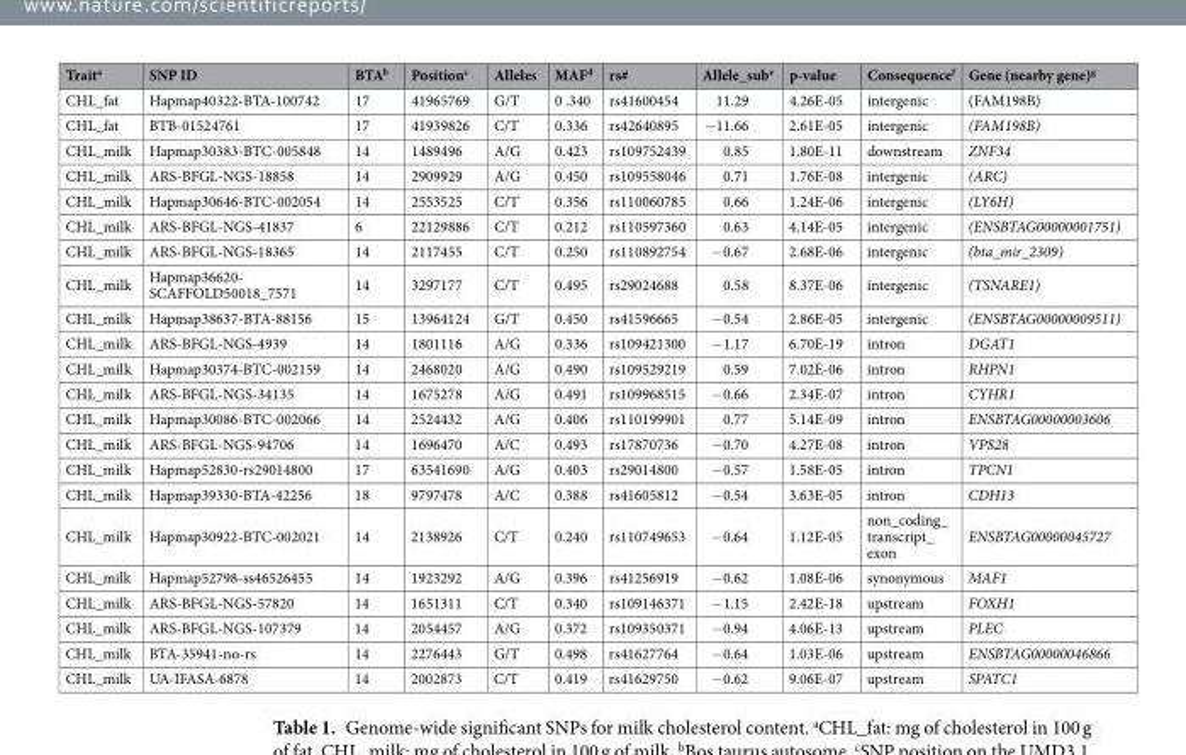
<table><thead><tr><td>Trait<sup>a</sup></td><td>SNP ID</td><td>BTA<sup>b</sup></td><td>Position<sup>c</sup></td><td>Alleles</td><td>MAF<sup>d</sup></td><td>rs#</td><td>Allele_sub<sup>e</sup></td><td>p-value</td><td>Consequence<sup>f</sup></td><td>Gene (nearby gene)<sup>g</sup></td></tr></thead><tbody><tr><td>CHL_fat</td><td>Hapmap40322-BTA-100742</td><td>17</td><td>41965769</td><td>G/T</td><td>0 .340</td><td>rs41600454</td><td>11.29</td><td>4.26E-05</td><td>intergenic</td><td>(FAM198B)</td></tr><tr><td>CHL_fat</td><td>BTB-01524761</td><td>17</td><td>41939826</td><td>C/T</td><td>0.336</td><td>rs42640895</td><td>−11.66</td><td>2.61E-05</td><td>intergenic</td><td>(FAM198B)</td></tr><tr><td>CHL_milk</td><td>Hapmap30383-BTC-005848</td><td>14</td><td>1489496</td><td>A/G</td><td>0.423</td><td>rs109752439</td><td>0.85</td><td>1.80E-11</td><td>downstream</td><td>ZNF34</td></tr><tr><td>CHL_milk</td><td>ARS-BFGL-NGS-18858</td><td>14</td><td>2909929</td><td>A/G</td><td>0.450</td><td>rs109558046</td><td>0.71</td><td>1.76E-08</td><td>intergenic</td><td>(ARC)</td></tr><tr><td>CHL_milk</td><td>Hapmap30646-BTC-002054</td><td>14</td><td>2553525</td><td>C/T</td><td>0.356</td><td>rs110060785</td><td>0.66</td><td>1.24E-06</td><td>intergenic</td><td>(LY6H)</td></tr><tr><td>CHL_milk</td><td>ARS-BFGL-NGS-41837</td><td>6</td><td>22129886</td><td>C/T</td><td>0.212</td><td>rs110597360</td><td>0.63</td><td>4.14E-05</td><td>intergenic</td><td>(ENSBTAG00000001751)</td></tr><tr><td>CHL_milk</td><td>ARS-BFGL-NGS-18365</td><td>14</td><td>2117455</td><td>C/T</td><td>0.250</td><td>rs110892754</td><td>−0.67</td><td>2.68E-06</td><td>intergenic</td><td>(bta_mir_2309)</td></tr><tr><td>CHL_milk</td><td>Hapmap36620- SCAFFOLD50018_7571</td><td>14</td><td>3297177</td><td>C/T</td><td>0.495</td><td>rs29024688</td><td>0.58</td><td>8.37E-06</td><td>intergenic</td><td>(TSNARE1)</td></tr><tr><td>CHL_milk</td><td>Hapmap38637-BTA-88156</td><td>15</td><td>13964124</td><td>G/T</td><td>0.450</td><td>rs41596665</td><td>−0.54</td><td>2.86E-05</td><td>intergenic</td><td>(ENSBTAG00000009511)</td></tr><tr><td>CHL_milk</td><td>ARS-BFGL-NGS-4939</td><td>14</td><td>1801116</td><td>A/G</td><td>0.336</td><td>rs109421300</td><td>−1.17</td><td>6.70E-19</td><td>intron</td><td>DGAT1</td></tr><tr><td>CHL_milk</td><td>Hapmap30374-BTC-002159</td><td>14</td><td>2468020</td><td>A/G</td><td>0.490</td><td>rs109529219</td><td>0.59</td><td>7.02E-06</td><td>intron</td><td>RHPN1</td></tr><tr><td>CHL_milk</td><td>ARS-BFGL-NGS-34135</td><td>14</td><td>1675278</td><td>A/G</td><td>0.491</td><td>rs109968515</td><td>−0.66</td><td>2.34E-07</td><td>intron</td><td>CYHR1</td></tr><tr><td>CHL_milk</td><td>Hapmap30086-BTC-002066</td><td>14</td><td>2524432</td><td>A/G</td><td>0.406</td><td>rs110199901</td><td>0.77</td><td>5.14E-09</td><td>intron</td><td>ENSBTAG00000003606</td></tr><tr><td>CHL_milk</td><td>ARS-BFGL-NGS-94706</td><td>14</td><td>1696470</td><td>A/C</td><td>0.493</td><td>rs17870736</td><td>−0.70</td><td>4.27E-08</td><td>intron</td><td>VPS28</td></tr><tr><td>CHL_milk</td><td>Hapmap52830-rs29014800</td><td>17</td><td>63541690</td><td>A/G</td><td>0.403</td><td>rs29014800</td><td>−0.57</td><td>1.58E-05</td><td>intron</td><td>TPCN1</td></tr><tr><td>CHL_milk</td><td>Hapmap39330-BTA-42256</td><td>18</td><td>9797478</td><td>A/C</td><td>0.388</td><td>rs41605812</td><td>−0.54</td><td>3.63E-05</td><td>intron</td><td>CDH13</td></tr><tr><td>CHL_milk</td><td>Hapmap30922-BTC-002021</td><td>14</td><td>2138926</td><td>C/T</td><td>0.240</td><td>rs110749653</td><td>−0.64</td><td>1.12E-05</td><td>non_coding_ transcript_ exon</td><td>ENSBTAG00000045727</td></tr><tr><td>CHL_milk</td><td>Hapmap52798-ss46526455</td><td>14</td><td>1923292</td><td>A/G</td><td>0.396</td><td>rs41256919</td><td>−0.62</td><td>1.08E-06</td><td>synonymous</td><td>MAF1</td></tr><tr><td>CHL_milk</td><td>ARS-BFGL-NGS-57820</td><td>14</td><td>1651311</td><td>C/T</td><td>0.340</td><td>rs109146371</td><td>−1.15</td><td>2.42E-18</td><td>upstream</td><td>FOXH1</td></tr><tr><td>CHL_milk</td><td>ARS-BFGL-NGS-107379</td><td>14</td><td>2054457</td><td>A/G</td><td>0.372</td><td>rs109350371</td><td>−0.94</td><td>4.06E-13</td><td>upstream</td><td>PLEC</td></tr><tr><td>CHL_milk</td><td>BTA-35941-no-rs</td><td>14</td><td>2276443</td><td>G/T</td><td>0.498</td><td>rs41627764</td><td>−0.64</td><td>1.03E-06</td><td>upstream</td><td>ENSBTAG00000046866</td></tr><tr><td>CHL_milk</td><td>UA-IFASA-6878</td><td>14</td><td>2002873</td><td>C/T</td><td>0.419</td><td>rs41629750</td><td>−0.62</td><td>9.06E-07</td><td>upstream</td><td>SPATC1</td></tr></tbody></table>